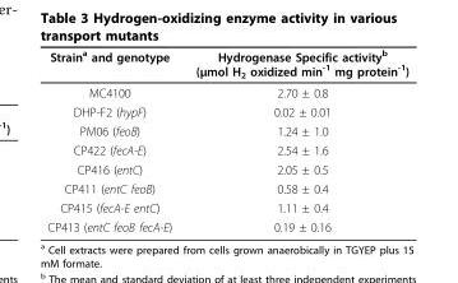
<table><thead><tr><td>Strain<sup>a</sup> and genotype</td><td>Hydrogenase Specific activity<sup>b</sup> (μmol H<sub>2</sub> oxidized min<sup>-1</sup> mg protein<sup>-1</sup>)</td></tr></thead><tbody><tr><td>MC4100</td><td>2.70 ± 0.8</td></tr><tr><td>DHP-F2 (hypF)</td><td>0.02 ± 0.01</td></tr><tr><td>PM06 (feoB)</td><td>1.24 ± 1.0</td></tr><tr><td>CP422 (fecA-E)</td><td>2.54 ± 1.6</td></tr><tr><td>CP416 (entC)</td><td>2.05 ± 0.5</td></tr><tr><td>CP411 (entC feoB)</td><td>0.58 ± 0.4</td></tr><tr><td>CP415 (fecA-E entC)</td><td>1.11 ± 0.4</td></tr><tr><td>CP413 (entC feoB fecA-E)</td><td>0.19 ± 0.16</td></tr></tbody></table>